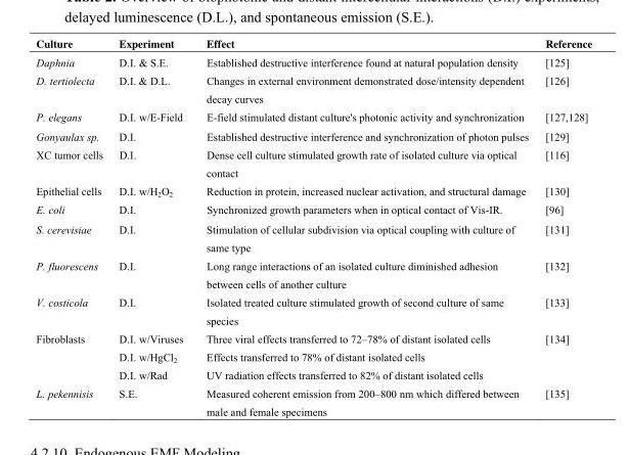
<table><thead><tr><td>Culture</td><td>Experiment</td><td>Effect</td><td>Reference</td></tr></thead><tbody><tr><td>Daphnia</td><td>D.I. &amp; S.E.</td><td>Established destructive interference found at natural population density</td><td>[125]</td></tr><tr><td>D. tertiolecta</td><td>D.I. &amp; D.L.</td><td>Changes in external environment demonstrated dose/intensity dependent decay curves</td><td>[126]</td></tr><tr><td>P. elegans</td><td>D.I. w/E-Field</td><td>E-field stimulated distant culture&#x27;s photonic activity and synchronization</td><td>[127,128]</td></tr><tr><td>Gonyaulax sp.</td><td>D.I.</td><td>Established destructive interference and synchronization of photon pulses</td><td>[129]</td></tr><tr><td>XC tumor cells</td><td>D.I.</td><td>Dense cell culture stimulated growth rate of isolated culture via optical contact</td><td>[116]</td></tr><tr><td>Epithelial cells</td><td>D.I. w/H<sub>2</sub>O<sub>2</sub></td><td>Reduction in protein, increased nuclear activation, and structural damage</td><td>[130]</td></tr><tr><td>E. coli</td><td>D.I.</td><td>Synchronized growth parameters when in optical contact of Vis-IR.</td><td>[96]</td></tr><tr><td>S. cerevisiae</td><td>D.I.</td><td>Stimulation of cellular subdivision via optical coupling with culture of same type</td><td>[131]</td></tr><tr><td>P. fluorescens</td><td>D.I.</td><td>Long range interactions of an isolated culture diminished adhesion between cells of another culture</td><td>[132]</td></tr><tr><td>V. costicola</td><td>D.I.</td><td>Isolated treated culture stimulated growth of second culture of same species</td><td>[133]</td></tr><tr><td rowspan="3">Fibroblasts</td><td>D.I. w/Viruses</td><td>Three viral effects transferred to 72–78% of distant isolated cells</td><td rowspan="3">[134]</td></tr><tr><td>D.I. w/HgCl<sub>2</sub></td><td>Effects transferred to 78% of distant isolated cells</td></tr><tr><td>D.I. w/Rad</td><td>UV radiation effects transferred to 82% of distant isolated cells</td></tr><tr><td>L. pekennisis</td><td>S.E.</td><td>Measured coherent emission from 200–800 nm which differed between male and female specimens</td><td>[135]</td></tr></tbody></table>